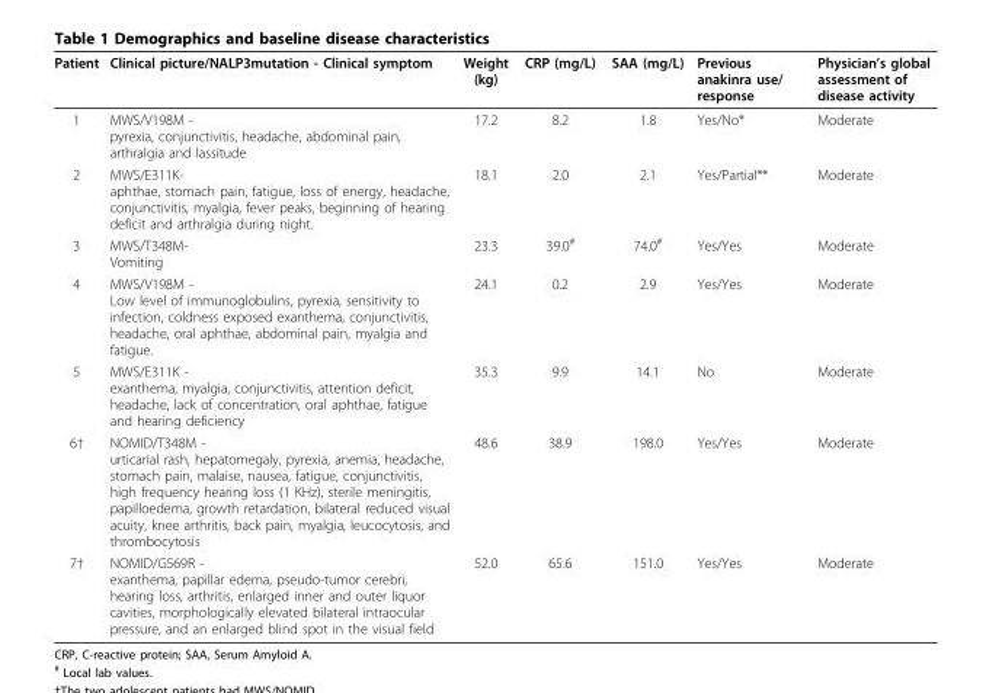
<table><thead><tr><td>Patient</td><td>Clinical picture/NALP3mutation - Clinical symptom</td><td>Weight (kg)</td><td>CRP (mg/L)</td><td>SAA (mg/L)</td><td>Previous anakinra use/ response</td><td>Physician’s global assessment of disease activity</td></tr></thead><tbody><tr><td>1</td><td>MWS/V198M - pyrexia, conjunctivitis, headache, abdominal pain, arthralgia and lassitude</td><td>17.2</td><td>8.2</td><td>1.8</td><td>Yes/No*</td><td>Moderate</td></tr><tr><td>2</td><td>MWS/E311K- aphthae, stomach pain, fatigue, loss of energy, headache, conjunctivitis, myalgia, fever peaks, beginning of hearing deficit and arthralgia during night.</td><td>18.1</td><td>2.0</td><td>2.1</td><td>Yes/Partial**</td><td>Moderate</td></tr><tr><td>3</td><td>MWS/T348M- Vomiting</td><td>23.3</td><td>39.0<sup>#</sup></td><td>74.0<sup>#</sup></td><td>Yes/Yes</td><td>Moderate</td></tr><tr><td>4</td><td>MWS/V198M - Low level of immunoglobulins, pyrexia, sensitivity to infection, coldness exposed exanthema, conjunctivitis, headache, oral aphthae, abdominal pain, myalgia and fatigue.</td><td>24.1</td><td>0.2</td><td>2.9</td><td>Yes/Yes</td><td>Moderate</td></tr><tr><td>5</td><td>MWS/E311K - exanthema, myalgia, conjunctivitis, attention deficit, headache, lack of concentration, oral aphthae, fatigue and hearing deficiency</td><td>35.3</td><td>9.9</td><td>14.1</td><td>No</td><td>Moderate</td></tr><tr><td>6†</td><td>NOMID/T348M - urticarial rash, hepatomegaly, pyrexia, anemia, headache, stomach pain, malaise, nausea, fatigue, conjunctivitis, high frequency hearing loss (1 KHz), sterile meningitis, papilloedema, growth retardation, bilateral reduced visual acuity, knee arthritis, back pain, myalgia, leucocytosis, and thrombocytosis</td><td>48.6</td><td>38.9</td><td>198.0</td><td>Yes/Yes</td><td>Moderate</td></tr><tr><td>7†</td><td>NOMID/G569R - exanthema, papillar edema, pseudo-tumor cerebri, hearing loss, arthritis, enlarged inner and outer liquor cavities, morphologically elevated bilateral intraocular pressure, and an enlarged blind spot in the visual field</td><td>52.0</td><td>65.6</td><td>151.0</td><td>Yes/Yes</td><td>Moderate</td></tr></tbody></table>